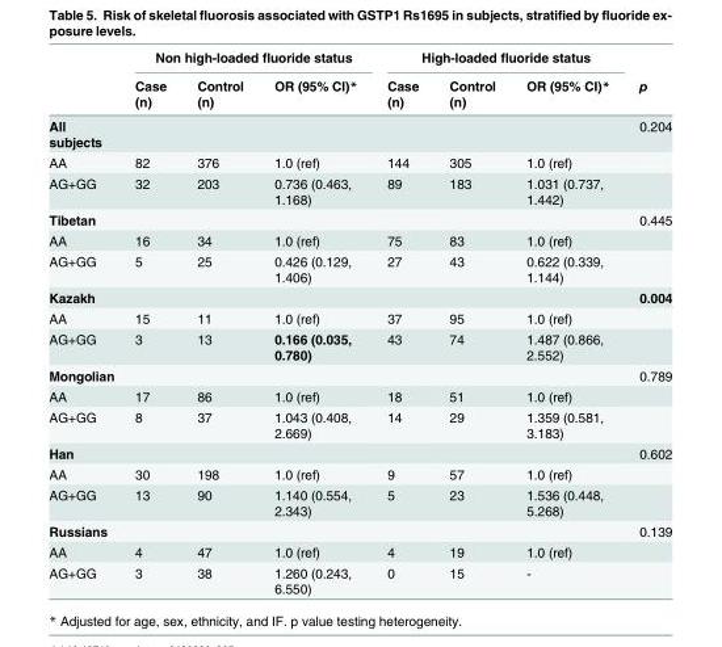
<table><thead><tr><td rowspan="2"></td><td colspan="3">Non high-loaded fluoride status</td><td colspan="3">High-loaded fluoride status</td><td rowspan="2">p</td></tr><tr><td>Case (n)</td><td>Control (n)</td><td>OR (95% CI)*</td><td>Case (n)</td><td>Control (n)</td><td>OR (95% CI)*</td></tr></thead><tbody><tr><td>All subjects</td><td></td><td></td><td></td><td></td><td></td><td></td><td>0.204</td></tr><tr><td>AA</td><td>82</td><td>376</td><td>1.0 (ref)</td><td>144</td><td>305</td><td>1.0 (ref)</td><td></td></tr><tr><td>AG+GG</td><td>32</td><td>203</td><td>0.736 (0.463, 1.168)</td><td>89</td><td>183</td><td>1.031 (0.737, 1.442)</td><td></td></tr><tr><td>Tibetan</td><td></td><td></td><td></td><td></td><td></td><td></td><td>0.445</td></tr><tr><td>AA</td><td>16</td><td>34</td><td>1.0 (ref)</td><td>75</td><td>83</td><td>1.0 (ref)</td><td></td></tr><tr><td>AG+GG</td><td>5</td><td>25</td><td>0.426 (0.129, 1.406)</td><td>27</td><td>43</td><td>0.622 (0.339, 1.144)</td><td></td></tr><tr><td>Kazakh</td><td></td><td></td><td></td><td></td><td></td><td></td><td>0.004</td></tr><tr><td>AA</td><td>15</td><td>11</td><td>1.0 (ref)</td><td>37</td><td>95</td><td>1.0 (ref)</td><td></td></tr><tr><td>AG+GG</td><td>3</td><td>13</td><td>0.166 (0.035, 0.780)</td><td>43</td><td>74</td><td>1.487 (0.866, 2.552)</td><td></td></tr><tr><td>Mongolian</td><td></td><td></td><td></td><td></td><td></td><td></td><td>0.789</td></tr><tr><td>AA</td><td>17</td><td>86</td><td>1.0 (ref)</td><td>18</td><td>51</td><td>1.0 (ref)</td><td></td></tr><tr><td>AG+GG</td><td>8</td><td>37</td><td>1.043 (0.408, 2.669)</td><td>14</td><td>29</td><td>1.359 (0.581, 3.183)</td><td></td></tr><tr><td>Han</td><td></td><td></td><td></td><td></td><td></td><td></td><td>0.602</td></tr><tr><td>AA</td><td>30</td><td>198</td><td>1.0 (ref)</td><td>9</td><td>57</td><td>1.0 (ref)</td><td></td></tr><tr><td>AG+GG</td><td>13</td><td>90</td><td>1.140 (0.554, 2.343)</td><td>5</td><td>23</td><td>1.536 (0.448, 5.268)</td><td></td></tr><tr><td>Russians</td><td></td><td></td><td></td><td></td><td></td><td></td><td>0.139</td></tr><tr><td>AA</td><td>4</td><td>47</td><td>1.0 (ref)</td><td>4</td><td>19</td><td>1.0 (ref)</td><td></td></tr><tr><td>AG+GG</td><td>3</td><td>38</td><td>1.260 (0.243, 6.550)</td><td>0</td><td>15</td><td>-</td><td></td></tr></tbody></table>